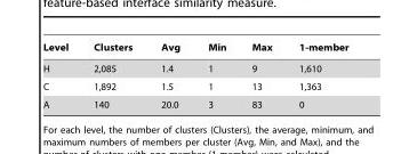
<table><thead><tr><td>Level</td><td>Clusters</td><td>Avg</td><td>Min</td><td>Max</td><td>1-member</td></tr></thead><tbody><tr><td>H</td><td>2,085</td><td>1.4</td><td>1</td><td>9</td><td>1,610</td></tr><tr><td>C</td><td>1,892</td><td>1.5</td><td>1</td><td>13</td><td>1,363</td></tr><tr><td>A</td><td>140</td><td>20.0</td><td>3</td><td>83</td><td>0</td></tr></tbody></table>